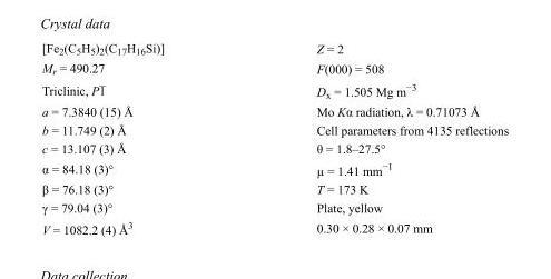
<table><tbody><tr><td>[Fe<sub>2</sub>(C<sub>5</sub>H<sub>5</sub>)<sub>2</sub>(C<sub>17</sub>H<sub>16</sub>Si)]</td><td>Z = 2</td></tr><tr><td>M<sub>r</sub> = 490.27</td><td>F(000) = 508</td></tr><tr><td>Triclinic, P1</td><td>D<sub>x</sub> = 1.505 Mg m<sup>−3</sup></td></tr><tr><td>a = 7.3840 (15) Å</td><td>Mo Kα radiation, λ = 0.71073 Å</td></tr><tr><td>b = 11.749 (2) Å</td><td>Cell parameters from 4135 reflections</td></tr><tr><td>c = 13.107 (3) Å</td><td>θ = 1.8–27.5°</td></tr><tr><td>α = 84.18 (3)°</td><td>µ = 1.41 mm<sup>−1</sup></td></tr><tr><td>β = 76.18 (3)°</td><td>T = 173 K</td></tr><tr><td>γ = 79.04 (3)°</td><td>Plate, yellow</td></tr><tr><td>V = 1082.2 (4) Å<sup>3</sup></td><td>0.30 × 0.28 × 0.07 mm</td></tr></tbody></table>